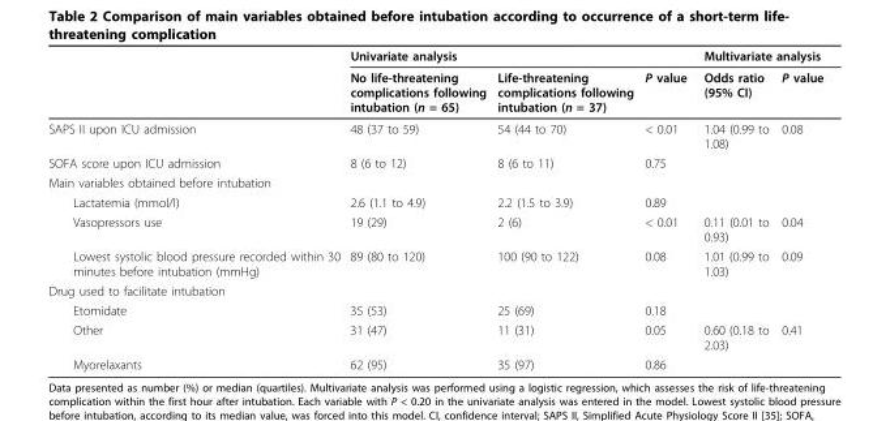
<table><thead><tr><td rowspan="2"></td><td colspan="3">Univariate analysis</td><td colspan="2">Multivariate analysis</td></tr><tr><td>No life-threatening complications following intubation (n = 65)</td><td>Life-threatening complications following intubation (n = 37)</td><td>P value</td><td>Odds ratio (95% CI)</td><td>P value</td></tr></thead><tbody><tr><td>SAPS II upon ICU admission</td><td>48 (37 to 59)</td><td>54 (44 to 70)</td><td>&lt; 0.01</td><td>1.04 (0.99 to 1.08)</td><td>0.08</td></tr><tr><td>SOFA score upon ICU admission</td><td>8 (6 to 12)</td><td>8 (6 to 11)</td><td>0.75</td><td></td><td></td></tr><tr><td colspan="6">Main variables obtained before intubation</td></tr><tr><td>Lactatemia (mmol/l)</td><td>2.6 (1.1 to 4.9)</td><td>2.2 (1.5 to 3.9)</td><td>0.89</td><td></td><td></td></tr><tr><td>Vasopressors use</td><td>19 (29)</td><td>2 (6)</td><td>&lt; 0.01</td><td>0.11 (0.01 to 0.93)</td><td>0.04</td></tr><tr><td>Lowest systolic blood pressure recorded within 30 minutes before intubation (mmHg)</td><td>89 (80 to 120)</td><td>100 (90 to 122)</td><td>0.08</td><td>1.01 (0.99 to 1.03)</td><td>0.09</td></tr><tr><td colspan="6">Drug used to facilitate intubation</td></tr><tr><td>Etomidate</td><td>35 (53)</td><td>25 (69)</td><td>0.18</td><td></td><td></td></tr><tr><td>Other</td><td>31 (47)</td><td>11 (31)</td><td>0.05</td><td>0.60 (0.18 to 2.03)</td><td>0.41</td></tr><tr><td>Myorelaxants</td><td>62 (95)</td><td>35 (97)</td><td>0.86</td><td></td><td></td></tr></tbody></table>